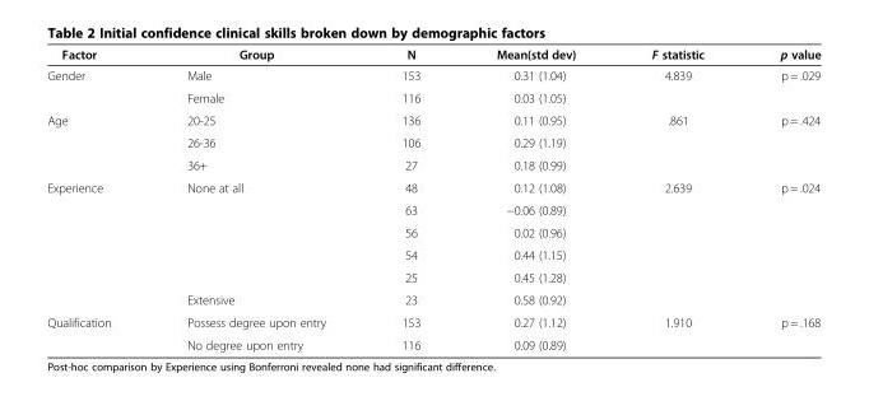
<table><thead><tr><td>Factor</td><td>Group</td><td>N</td><td>Mean(std dev)</td><td>F statistic</td><td>p value</td></tr></thead><tbody><tr><td rowspan="2">Gender</td><td>Male</td><td>153</td><td>0.31 (1.04)</td><td>4.839</td><td>p = .029</td></tr><tr><td>Female</td><td>116</td><td>0.03 (1.05)</td><td></td><td></td></tr><tr><td rowspan="3">Age</td><td>20-25</td><td>136</td><td>0.11 (0.95)</td><td>.861</td><td>p = .424</td></tr><tr><td>26-36</td><td>106</td><td>0.29 (1.19)</td><td></td><td></td></tr><tr><td>36+</td><td>27</td><td>0.18 (0.99)</td><td></td><td></td></tr><tr><td rowspan="6">Experience</td><td>None at all</td><td>48</td><td>0.12 (1.08)</td><td>2.639</td><td>p = .024</td></tr><tr><td></td><td>63</td><td>−0.06 (0.89)</td><td></td><td></td></tr><tr><td></td><td>56</td><td>0.02 (0.96)</td><td></td><td></td></tr><tr><td></td><td>54</td><td>0.44 (1.15)</td><td></td><td></td></tr><tr><td></td><td>25</td><td>0.45 (1.28)</td><td></td><td></td></tr><tr><td>Extensive</td><td>23</td><td>0.58 (0.92)</td><td></td><td></td></tr><tr><td rowspan="2">Qualification</td><td>Possess degree upon entry</td><td>153</td><td>0.27 (1.12)</td><td>1.910</td><td>p = .168</td></tr><tr><td>No degree upon entry</td><td>116</td><td>0.09 (0.89)</td><td></td><td></td></tr></tbody></table>